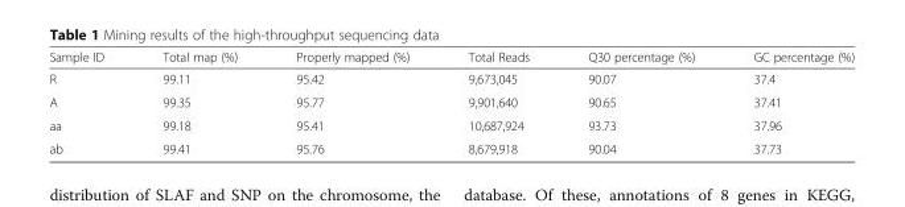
<table><thead><tr><td>Sample ID</td><td>Total map (%)</td><td>Properly mapped (%)</td><td>Total Reads</td><td>Q30 percentage (%)</td><td>GC percentage (%)</td></tr></thead><tbody><tr><td>R</td><td>99.11</td><td>95.42</td><td>9,673,045</td><td>90.07</td><td>37.4</td></tr><tr><td>A</td><td>99.35</td><td>95.77</td><td>9,901,640</td><td>90.65</td><td>37.41</td></tr><tr><td>aa</td><td>99.18</td><td>95.41</td><td>10,687,924</td><td>93.73</td><td>37.96</td></tr><tr><td>ab</td><td>99.41</td><td>95.76</td><td>8,679,918</td><td>90.04</td><td>37.73</td></tr></tbody></table>